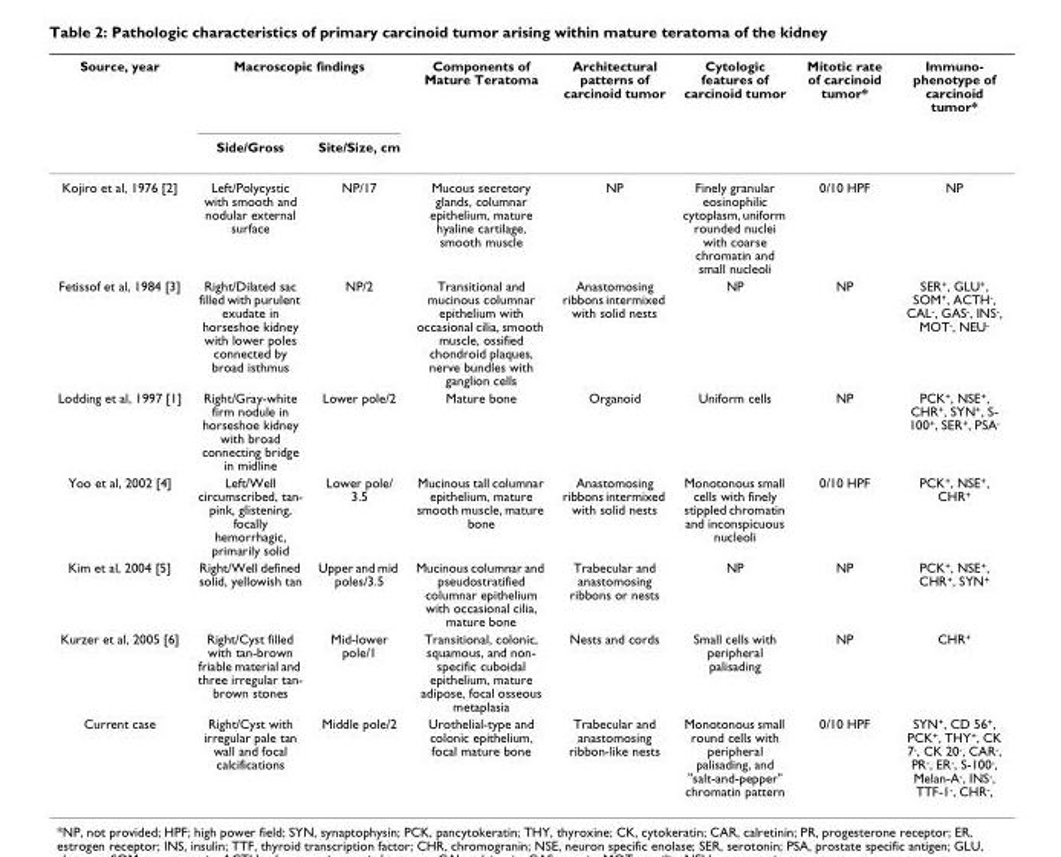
<table><thead><tr><td rowspan="2">Source, year</td><td colspan="2">Macroscopic findings</td><td rowspan="2">Components of Mature Teratoma</td><td rowspan="2">Architectural patterns of carcinoid tumor</td><td rowspan="2">Cytologic features of carcinoid tumor</td><td rowspan="2">Mitotic rate of carcinoid tumor*</td><td rowspan="2">Immuno- phenotype of carcinoid tumor*</td></tr><tr><td>Side/Gross</td><td>Site/Size, cm</td></tr></thead><tbody><tr><td>Kojiro et al, 1976 [2]</td><td>Left/Polycystic with smooth and nodular external surface</td><td>NP/17</td><td>Mucous secretory glands, columnar epithelium, mature hyaline cartilage, smooth muscle</td><td>NP</td><td>Finely granular eosinophilic cytoplasm, uniform rounded nuclei with coarse chromatin and small nucleoli</td><td>0/10 HPF</td><td>NP</td></tr><tr><td>Fetissof et al, 1984 [3]</td><td>Right/Dilated sac filled with purulent exudate in horseshoe kidney with lower poles connected by broad isthmus</td><td>NP/2</td><td>Transitional and mucinous columnar epithelium with occasional cilia, smooth muscle, ossified chondroid plaques, nerve bundles with ganglion cells</td><td>Anastomosing ribbons intermixed with solid nests</td><td>NP</td><td>NP</td><td>SER<sup>+</sup>, GLU<sup>+</sup>, SOM<sup>+</sup>, ACTH<sup>-</sup>, CAL<sup>-</sup>, GAS<sup>-</sup>, INS<sup>-</sup>, MOT<sup>-</sup>, NEU<sup>-</sup></td></tr><tr><td>Lodding et al, 1997 [1]</td><td>Right/Gray-white firm nodule in horseshoe kidney with broad connecting bridge in midline</td><td>Lower pole/2</td><td>Mature bone</td><td>Organoid</td><td>Uniform cells</td><td>NP</td><td>PCK<sup>+</sup>, NSE<sup>+</sup>, CHR<sup>+</sup>, SYN<sup>+</sup>, S- 100<sup>+</sup>, SER<sup>+</sup>, PSA<sup>-</sup></td></tr><tr><td>Yoo et al, 2002 [4]</td><td>Left/Well circumscribed, tan- pink, glistening, focally hemorrhagic, primarily solid</td><td>Lower pole/ 3.5</td><td>Mucinous tall columnar epithelium, mature smooth muscle, mature bone</td><td>Anastomosing ribbons intermixed with solid nests</td><td>Monotonous small cells with finely stippled chromatin and inconspicuous nucleoli</td><td>0/10 HPF</td><td>PCK<sup>+</sup>, NSE<sup>+</sup>, CHR<sup>+</sup></td></tr><tr><td>Kim et al, 2004 [5]</td><td>Right/Well defined solid, yellowish tan</td><td>Upper and mid poles/3.5</td><td>Mucinous columnar and pseudostratified columnar epithelium with occasional cilia, mature bone</td><td>Trabecular and anastomosing ribbons or nests</td><td>NP</td><td>NP</td><td>PCK<sup>+</sup>, NSE<sup>+</sup>, CHR<sup>+</sup>, SYN<sup>+</sup></td></tr><tr><td>Kurzer et al, 2005 [6]</td><td>Right/Cyst filled with tan-brown friable material and three irregular tan- brown stones</td><td>Mid-lower pole/1</td><td>Transitional, colonic, squamous, and non- specific cuboidal epithelium, mature adipose, focal osseous metaplasia</td><td>Nests and cords</td><td>Small cells with peripheral palisading</td><td>NP</td><td>CHR<sup>+</sup></td></tr><tr><td>Current case</td><td>Right/Cyst with irregular pale tan wall and focal calcifications</td><td>Middle pole/2</td><td>Urothelial-type and colonic epithelium, focal mature bone</td><td>Trabecular and anastomosing ribbon-like nests</td><td>Monotonous small round cells with peripheral palisading, and &quot;salt-and-pepper&quot; chromatin pattern</td><td>0/10 HPF</td><td>SYN<sup>+</sup>, CD 56<sup>+</sup>, PCK<sup>+</sup>, THY<sup>+</sup>, CK 7<sup>-</sup>, CK 20<sup>-</sup>, CAR<sup>-</sup>, PR<sup>-</sup>, ER<sup>-</sup>, S-100<sup>-</sup>, Melan-A<sup>-</sup>, INS<sup>-</sup>, TTF-1<sup>-</sup>, CHR<sup>-</sup>,</td></tr></tbody></table>